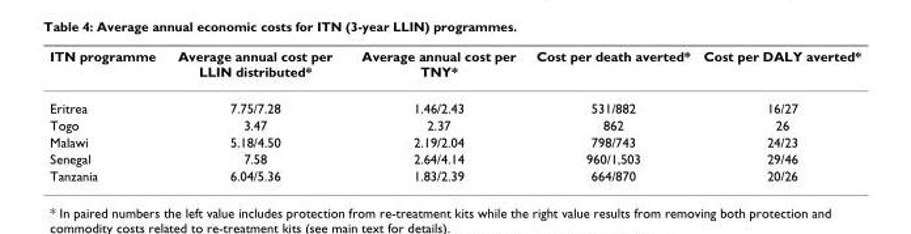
<table><thead><tr><td>ITN programme</td><td>Average annual cost per LLIN distributed*</td><td>Average annual cost per TNY*</td><td>Cost per death averted*</td><td>Cost per DALY averted*</td></tr></thead><tbody><tr><td>Eritrea</td><td>7.75/7.28</td><td>1.46/2.43</td><td>531/882</td><td>16/27</td></tr><tr><td>Togo</td><td>3.47</td><td>2.37</td><td>862</td><td>26</td></tr><tr><td>Malawi</td><td>5.18/4.50</td><td>2.19/2.04</td><td>798/743</td><td>24/23</td></tr><tr><td>Senegal</td><td>7.58</td><td>2.64/4.14</td><td>960/1,503</td><td>29/46</td></tr><tr><td>Tanzania</td><td>6.04/5.36</td><td>1.83/2.39</td><td>664/870</td><td>20/26</td></tr></tbody></table>